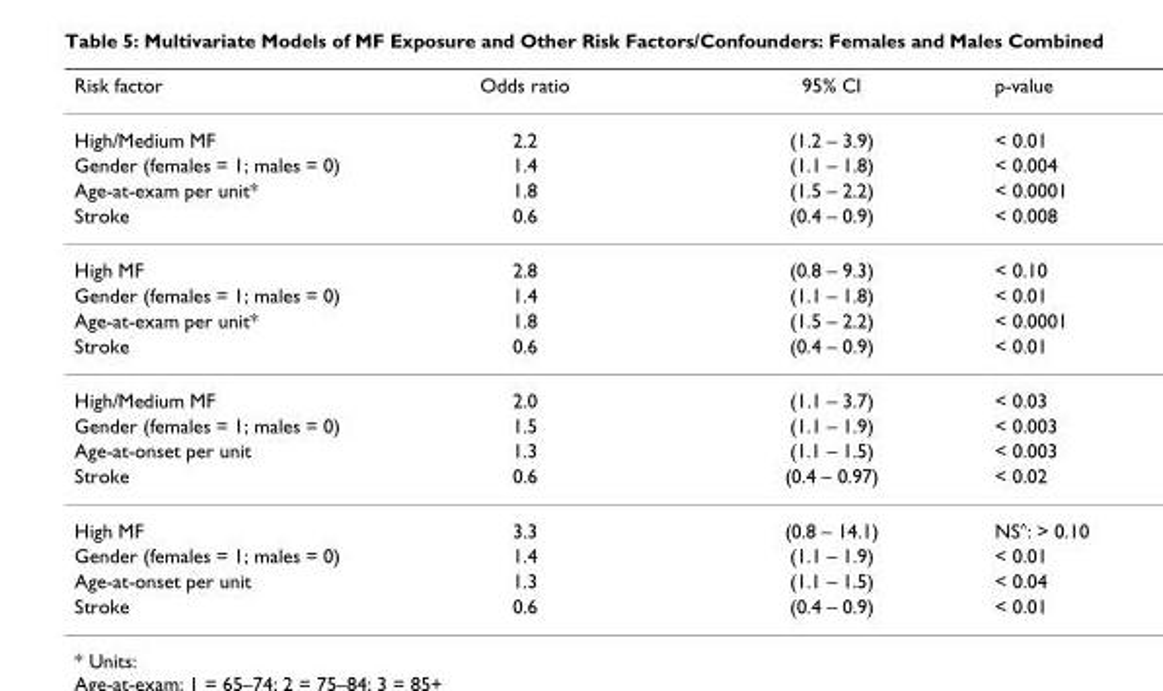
<table><thead><tr><td>Risk factor</td><td>Odds ratio</td><td>95% CI</td><td>p-value</td></tr></thead><tbody><tr><td>High/Medium MF</td><td>2.2</td><td>(1.2 – 3.9)</td><td>&lt; 0.01</td></tr><tr><td>Gender (females = 1; males = 0)</td><td>1.4</td><td>(1.1 – 1.8)</td><td>&lt; 0.004</td></tr><tr><td>Age-at-exam per unit*</td><td>1.8</td><td>(1.5 – 2.2)</td><td>&lt; 0.0001</td></tr><tr><td>Stroke</td><td>0.6</td><td>(0.4 – 0.9)</td><td>&lt; 0.008</td></tr><tr><td>High MF</td><td>2.8</td><td>(0.8 – 9.3)</td><td>&lt; 0.10</td></tr><tr><td>Gender (females = 1; males = 0)</td><td>1.4</td><td>(1.1 – 1.8)</td><td>&lt; 0.01</td></tr><tr><td>Age-at-exam per unit*</td><td>1.8</td><td>(1.5 – 2.2)</td><td>&lt; 0.0001</td></tr><tr><td>Stroke</td><td>0.6</td><td>(0.4 – 0.9)</td><td>&lt; 0.01</td></tr><tr><td>High/Medium MF</td><td>2.0</td><td>(1.1 – 3.7)</td><td>&lt; 0.03</td></tr><tr><td>Gender (females = 1; males = 0)</td><td>1.5</td><td>(1.1 – 1.9)</td><td>&lt; 0.003</td></tr><tr><td>Age-at-onset per unit</td><td>1.3</td><td>(1.1 – 1.5)</td><td>&lt; 0.003</td></tr><tr><td>Stroke</td><td>0.6</td><td>(0.4 – 0.97)</td><td>&lt; 0.02</td></tr><tr><td>High MF</td><td>3.3</td><td>(0.8 – 14.1)</td><td>NS<sup>^</sup>: &gt; 0.10</td></tr><tr><td>Gender (females = 1; males = 0)</td><td>1.4</td><td>(1.1 – 1.9)</td><td>&lt; 0.01</td></tr><tr><td>Age-at-onset per unit</td><td>1.3</td><td>(1.1 – 1.5)</td><td>&lt; 0.04</td></tr><tr><td>Stroke</td><td>0.6</td><td>(0.4 – 0.9)</td><td>&lt; 0.01</td></tr></tbody></table>